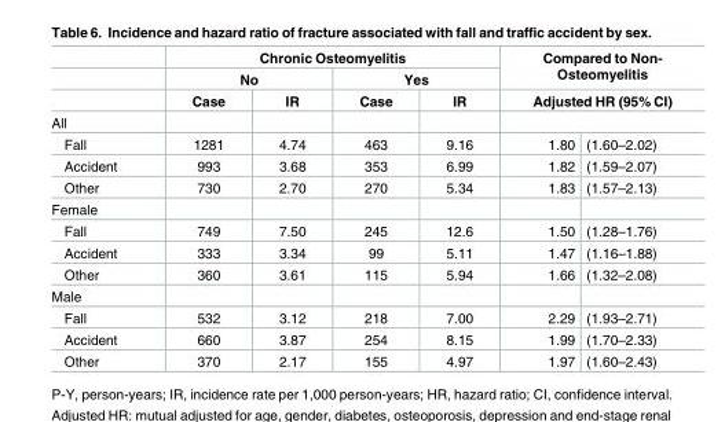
<table><thead><tr><td rowspan="5">All Fall</td><td colspan="4">Chronic Osteomyelitis</td><td rowspan="4" colspan="2">Compared to Non- Osteomyelitis Adjusted HR (95% CI)</td></tr><tr><td colspan="2">No</td><td colspan="2">Yes</td></tr><tr><td rowspan="3">Case 1281</td><td rowspan="3">IR 4.74</td><td rowspan="3">Case 463</td><td rowspan="3">IR 9.16</td></tr><tr></tr><tr><td>1.80</td><td>(1.60–2.02)</td></tr></thead><tbody><tr><td>Accident</td><td>993</td><td>3.68</td><td>353</td><td>6.99</td><td>1.82</td><td>(1.59–2.07)</td></tr><tr><td>Other</td><td>730</td><td>2.70</td><td>270</td><td>5.34</td><td>1.83</td><td>(1.57–2.13)</td></tr><tr><td colspan="7">Female</td></tr><tr><td>Fall</td><td>749</td><td>7.50</td><td>245</td><td>12.6</td><td>1.50</td><td>(1.28–1.76)</td></tr><tr><td>Accident</td><td>333</td><td>3.34</td><td>99</td><td>5.11</td><td>1.47</td><td>(1.16–1.88)</td></tr><tr><td>Other</td><td>360</td><td>3.61</td><td>115</td><td>5.94</td><td>1.66</td><td>(1.32–2.08)</td></tr><tr><td colspan="7">Male</td></tr><tr><td>Fall</td><td>532</td><td>3.12</td><td>218</td><td>7.00</td><td>2.29</td><td>(1.93–2.71)</td></tr><tr><td>Accident</td><td>660</td><td>3.87</td><td>254</td><td>8.15</td><td>1.99</td><td>(1.70–2.33)</td></tr><tr><td>Other</td><td>370</td><td>2.17</td><td>155</td><td>4.97</td><td>1.97</td><td>(1.60–2.43)</td></tr></tbody></table>